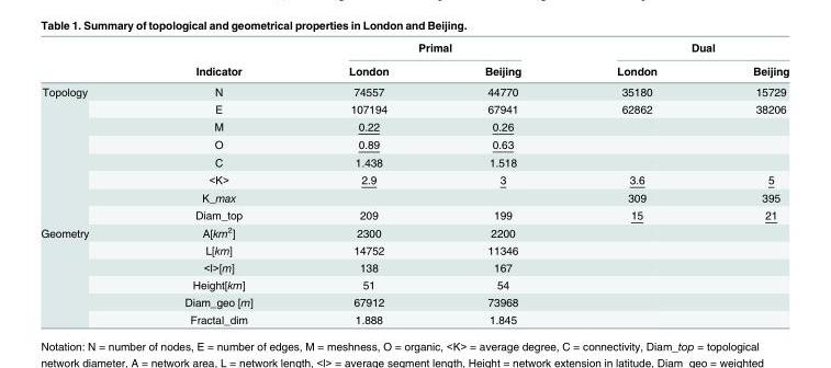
<table><thead><tr><td rowspan="2"></td><td rowspan="2">Indicator</td><td colspan="2">Primal</td><td colspan="2">Dual</td></tr><tr><td>London</td><td>Beijing</td><td>London</td><td>Beijing</td></tr></thead><tbody><tr><td rowspan="8">Topology</td><td>N</td><td>74557</td><td>44770</td><td>35180</td><td>15729</td></tr><tr><td>E</td><td>107194</td><td>67941</td><td>62862</td><td>38206</td></tr><tr><td>M</td><td>0.22</td><td>0.26</td><td></td><td></td></tr><tr><td>O</td><td>0.89</td><td>0.63</td><td></td><td></td></tr><tr><td>C</td><td>1.438</td><td>1.518</td><td></td><td></td></tr><tr><td>&lt;K&gt;</td><td>2.9</td><td>3</td><td>3.6</td><td>5</td></tr><tr><td>K_max</td><td></td><td></td><td>309</td><td>395</td></tr><tr><td>Diam_top</td><td>209</td><td>199</td><td>15</td><td>21</td></tr><tr><td rowspan="6">Geometry</td><td>A[km<sup>2</sup>]</td><td>2300</td><td>2200</td><td></td><td></td></tr><tr><td>L[km]</td><td>14752</td><td>11346</td><td></td><td></td></tr><tr><td>&lt;l&gt;[m]</td><td>138</td><td>167</td><td></td><td></td></tr><tr><td>Height[km]</td><td>51</td><td>54</td><td></td><td></td></tr><tr><td>Diam_geo [m]</td><td>67912</td><td>73968</td><td></td><td></td></tr><tr><td>Fractal_dim</td><td>1.888</td><td>1.845</td><td></td><td></td></tr></tbody></table>